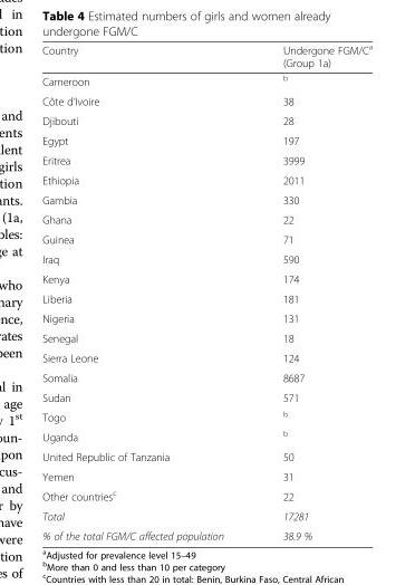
<table><thead><tr><td>Country</td><td>Undergone FGM/C<sup>a</sup> (Group 1a)</td></tr></thead><tbody><tr><td>Cameroon</td><td><sup>b</sup></td></tr><tr><td>Côte d’Ivoire</td><td>38</td></tr><tr><td>Djibouti</td><td>28</td></tr><tr><td>Egypt</td><td>197</td></tr><tr><td>Eritrea</td><td>3999</td></tr><tr><td>Ethiopia</td><td>2011</td></tr><tr><td>Gambia</td><td>330</td></tr><tr><td>Ghana</td><td>22</td></tr><tr><td>Guinea</td><td>71</td></tr><tr><td>Iraq</td><td>590</td></tr><tr><td>Kenya</td><td>174</td></tr><tr><td>Liberia</td><td>181</td></tr><tr><td>Nigeria</td><td>131</td></tr><tr><td>Senegal</td><td>18</td></tr><tr><td>Sierra Leone</td><td>124</td></tr><tr><td>Somalia</td><td>8687</td></tr><tr><td>Sudan</td><td>571</td></tr><tr><td>Togo</td><td><sup>b</sup></td></tr><tr><td>Uganda</td><td><sup>b</sup></td></tr><tr><td>United Republic of Tanzania</td><td>50</td></tr><tr><td>Yemen</td><td>31</td></tr><tr><td>Other countries<sup>c</sup></td><td>22</td></tr><tr><td>Total</td><td>17281</td></tr><tr><td>% of the total FGM/C affected population</td><td>38.9 %</td></tr></tbody></table>